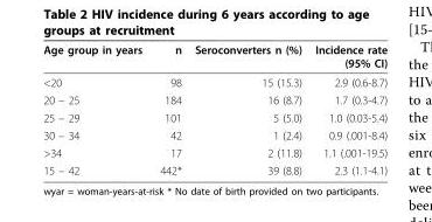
<table><thead><tr><td>Age group in years</td><td>n</td><td>Seroconverters n (%)</td><td>Incidence rate (95% CI)</td></tr></thead><tbody><tr><td>&lt;20</td><td>98</td><td>15 (15.3)</td><td>2.9 (0.6-8.7)</td></tr><tr><td>20 – 25</td><td>184</td><td>16 (8.7)</td><td>1.7 (0.3-4.7)</td></tr><tr><td>25 – 29</td><td>101</td><td>5 (5.0)</td><td>1.0 (0.03-5.4)</td></tr><tr><td>30 – 34</td><td>42</td><td>1 (2.4)</td><td>0.9 (.001-8.4)</td></tr><tr><td>&gt;34</td><td>17</td><td>2 (11.8)</td><td>1.1 (.001-19.5)</td></tr><tr><td>15 – 42</td><td>442*</td><td>39 (8.8)</td><td>2.3 (1.1-4.1)</td></tr></tbody></table>